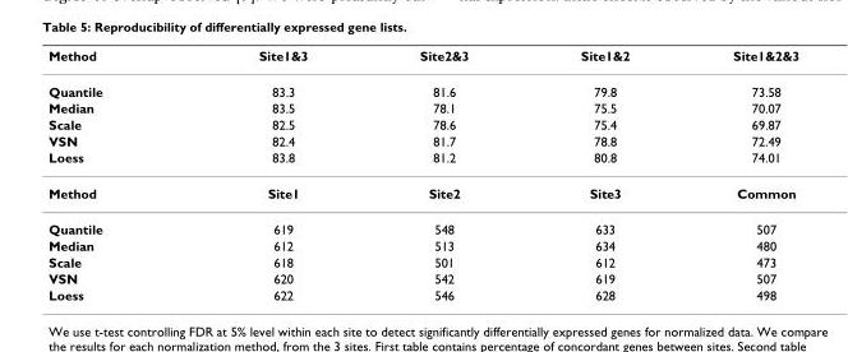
<table><thead><tr><td>Method</td><td>Site1&amp;3</td><td>Site2&amp;3</td><td>Site1&amp;2</td><td>Site1&amp;2&amp;3</td></tr></thead><tbody><tr><td>Quantile</td><td>83.3</td><td>81.6</td><td>79.8</td><td>73.58</td></tr><tr><td>Median</td><td>83.5</td><td>78.1</td><td>75.5</td><td>70.07</td></tr><tr><td>Scale</td><td>82.5</td><td>78.6</td><td>75.4</td><td>69.87</td></tr><tr><td>VSN</td><td>82.4</td><td>81.7</td><td>78.8</td><td>72.49</td></tr><tr><td>Loess</td><td>83.8</td><td>81.2</td><td>80.8</td><td>74.01</td></tr><tr><td>Method</td><td>Site1</td><td>Site2</td><td>Site3</td><td>Common</td></tr><tr><td>Quantile</td><td>619</td><td>548</td><td>633</td><td>507</td></tr><tr><td>Median</td><td>612</td><td>513</td><td>634</td><td>480</td></tr><tr><td>Scale</td><td>618</td><td>501</td><td>612</td><td>473</td></tr><tr><td>VSN</td><td>620</td><td>542</td><td>619</td><td>507</td></tr><tr><td>Loess</td><td>622</td><td>546</td><td>628</td><td>498</td></tr></tbody></table>